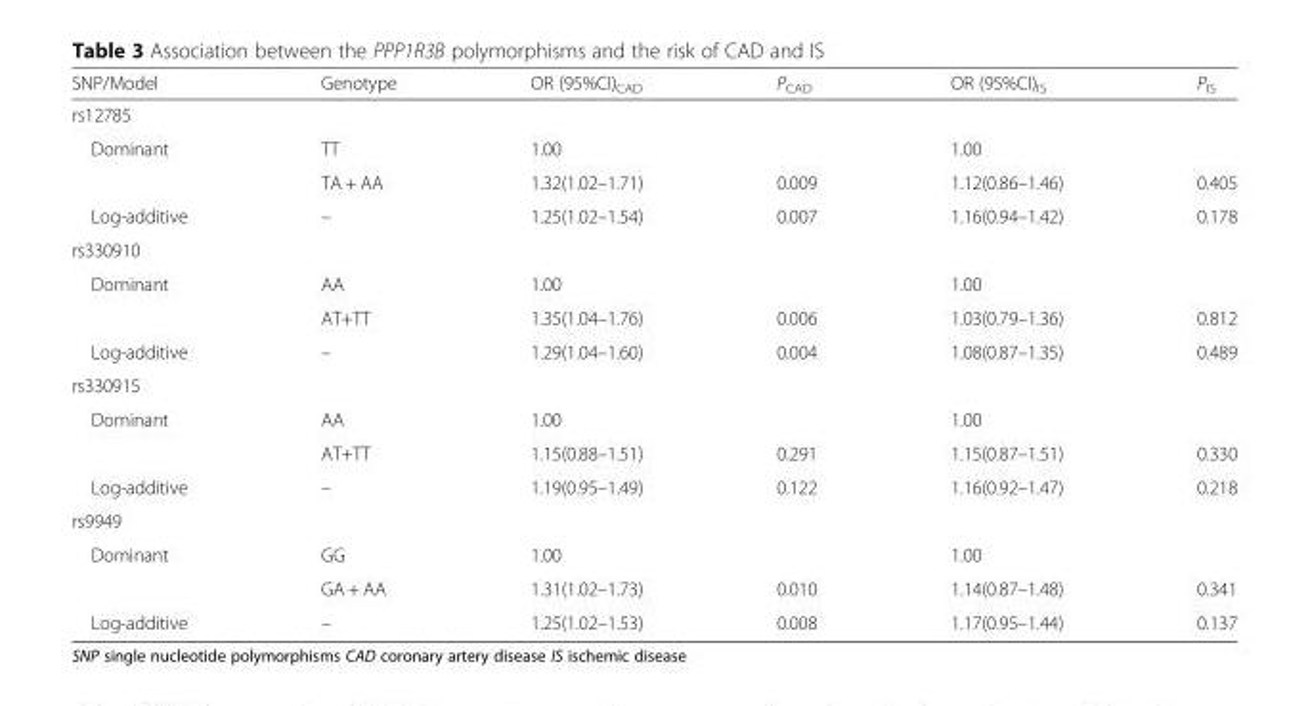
<table><thead><tr><td>SNP/Model</td><td>Genotype</td><td>OR (95%CI)<sub>CAD</sub></td><td>P<sub>CAD</sub></td><td>OR (95%CI)<sub>IS</sub></td><td>P<sub>IS</sub></td></tr></thead><tbody><tr><td colspan="6">rs12785</td></tr><tr><td rowspan="2">Dominant</td><td>TT</td><td colspan="2">1.00</td><td colspan="2">1.00</td></tr><tr><td>TA + AA</td><td>1.32(1.02–1.71)</td><td>0.009</td><td>1.12(0.86–1.46)</td><td>0.405</td></tr><tr><td>Log-additive</td><td>–</td><td>1.25(1.02–1.54)</td><td>0.007</td><td>1.16(0.94–1.42)</td><td>0.178</td></tr><tr><td colspan="6">rs330910</td></tr><tr><td rowspan="2">Dominant</td><td>AA</td><td colspan="2">1.00</td><td colspan="2">1.00</td></tr><tr><td>AT+TT</td><td>1.35(1.04–1.76)</td><td>0.006</td><td>1.03(0.79–1.36)</td><td>0.812</td></tr><tr><td>Log-additive</td><td>–</td><td>1.29(1.04–1.60)</td><td>0.004</td><td>1.08(0.87–1.35)</td><td>0.489</td></tr><tr><td colspan="6">rs330915</td></tr><tr><td rowspan="2">Dominant</td><td>AA</td><td colspan="2">1.00</td><td colspan="2">1.00</td></tr><tr><td>AT+TT</td><td>1.15(0.88–1.51)</td><td>0.291</td><td>1.15(0.87–1.51)</td><td>0.330</td></tr><tr><td>Log-additive</td><td>–</td><td>1.19(0.95–1.49)</td><td>0.122</td><td>1.16(0.92–1.47)</td><td>0.218</td></tr><tr><td colspan="6">rs9949</td></tr><tr><td rowspan="2">Dominant</td><td>GG</td><td colspan="2">1.00</td><td colspan="2">1.00</td></tr><tr><td>GA + AA</td><td>1.31(1.02–1.73)</td><td>0.010</td><td>1.14(0.87–1.48)</td><td>0.341</td></tr><tr><td>Log-additive</td><td>–</td><td>1.25(1.02–1.53)</td><td>0.008</td><td>1.17(0.95–1.44)</td><td>0.137</td></tr></tbody></table>